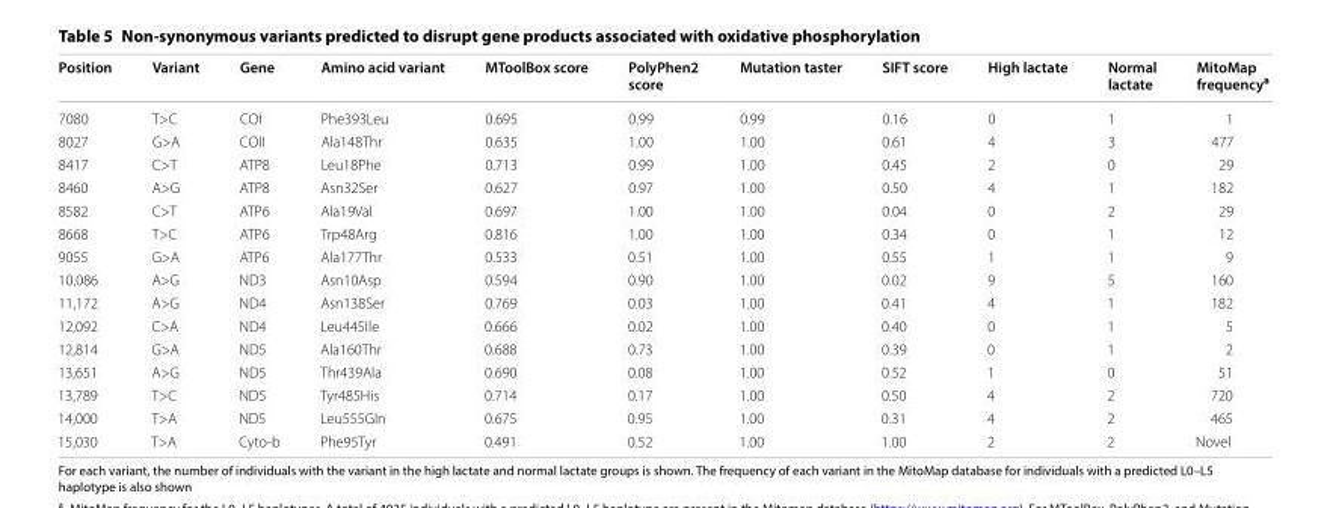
<table><thead><tr><td>Position</td><td>Variant</td><td>Gene</td><td>Amino acid variant</td><td>MToolBox score</td><td>PolyPhen2 score</td><td>Mutation taster</td><td>SIFT score</td><td>High lactate</td><td>Normal lactate</td><td>MitoMap frequency<sup>a</sup></td></tr></thead><tbody><tr><td>7080</td><td>T&gt;C</td><td>COI</td><td>Phe393Leu</td><td>0.695</td><td>0.99</td><td>0.99</td><td>0.16</td><td>0</td><td>1</td><td>1</td></tr><tr><td>8027</td><td>G&gt;A</td><td>COII</td><td>Ala148Thr</td><td>0.635</td><td>1.00</td><td>1.00</td><td>0.61</td><td>4</td><td>3</td><td>477</td></tr><tr><td>8417</td><td>C&gt;T</td><td>ATP8</td><td>Leu18Phe</td><td>0.713</td><td>0.99</td><td>1.00</td><td>0.45</td><td>2</td><td>0</td><td>29</td></tr><tr><td>8460</td><td>A&gt;G</td><td>ATP8</td><td>Asn32Ser</td><td>0.627</td><td>0.97</td><td>1.00</td><td>0.50</td><td>4</td><td>1</td><td>182</td></tr><tr><td>8582</td><td>C&gt;T</td><td>ATP6</td><td>Ala19Val</td><td>0.697</td><td>1.00</td><td>1.00</td><td>0.04</td><td>0</td><td>2</td><td>29</td></tr><tr><td>8668</td><td>T&gt;C</td><td>ATP6</td><td>Trp48Arg</td><td>0.816</td><td>1.00</td><td>1.00</td><td>0.34</td><td>0</td><td>1</td><td>12</td></tr><tr><td>9055</td><td>G&gt;A</td><td>ATP6</td><td>Ala177Thr</td><td>0.533</td><td>0.51</td><td>1.00</td><td>0.55</td><td>1</td><td>1</td><td>9</td></tr><tr><td>10,086</td><td>A&gt;G</td><td>ND3</td><td>Asn10Asp</td><td>0.594</td><td>0.90</td><td>1.00</td><td>0.02</td><td>9</td><td>5</td><td>160</td></tr><tr><td>11,172</td><td>A&gt;G</td><td>ND4</td><td>Asn138Ser</td><td>0.769</td><td>0.03</td><td>1.00</td><td>0.41</td><td>4</td><td>1</td><td>182</td></tr><tr><td>12,092</td><td>C&gt;A</td><td>ND4</td><td>Leu445Ile</td><td>0.666</td><td>0.02</td><td>1.00</td><td>0.40</td><td>0</td><td>1</td><td>5</td></tr><tr><td>12,814</td><td>G&gt;A</td><td>ND5</td><td>Ala160Thr</td><td>0.688</td><td>0.73</td><td>1.00</td><td>0.39</td><td>0</td><td>1</td><td>2</td></tr><tr><td>13,651</td><td>A&gt;G</td><td>ND5</td><td>Thr439Ala</td><td>0.690</td><td>0.08</td><td>1.00</td><td>0.52</td><td>1</td><td>0</td><td>51</td></tr><tr><td>13,789</td><td>T&gt;C</td><td>ND5</td><td>Tyr485His</td><td>0.714</td><td>0.17</td><td>1.00</td><td>0.50</td><td>4</td><td>2</td><td>720</td></tr><tr><td>14,000</td><td>T&gt;A</td><td>ND5</td><td>Leu555Gln</td><td>0.675</td><td>0.95</td><td>1.00</td><td>0.31</td><td>4</td><td>2</td><td>465</td></tr><tr><td>15,030</td><td>T&gt;A</td><td>Cyto‑b</td><td>Phe95Tyr</td><td>0.491</td><td>0.52</td><td>1.00</td><td>1.00</td><td>2</td><td>2</td><td>Novel</td></tr></tbody></table>